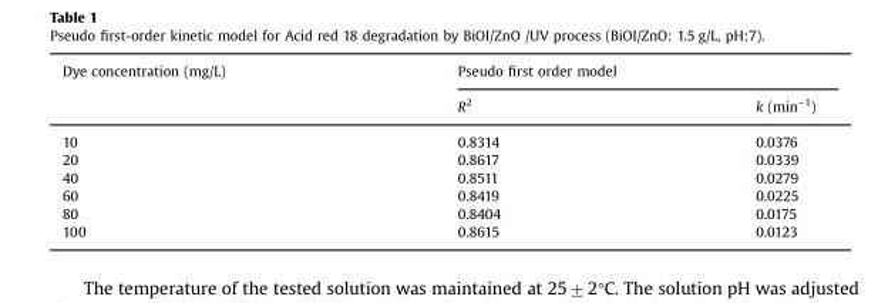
<table><thead><tr><td rowspan="2">Dye concentration (mg/L)</td><td colspan="2">Pseudo first order model</td></tr><tr><td>R<sup>2</sup></td><td>k (min<sup>−1</sup>)</td></tr></thead><tbody><tr><td>10</td><td>0.8314</td><td>0.0376</td></tr><tr><td>20</td><td>0.8617</td><td>0.0339</td></tr><tr><td>40</td><td>0.8511</td><td>0.0279</td></tr><tr><td>60</td><td>0.8419</td><td>0.0225</td></tr><tr><td>80</td><td>0.8404</td><td>0.0175</td></tr><tr><td>100</td><td>0.8615</td><td>0.0123</td></tr></tbody></table>